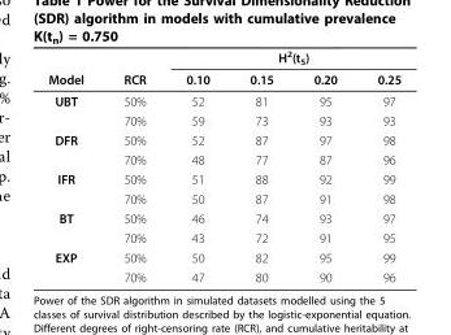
<table><thead><tr><td rowspan="2">Model</td><td rowspan="2">RCR</td><td colspan="4">H<sup>2</sup>(t<sub>5</sub>)</td></tr><tr><td>0.10</td><td>0.15</td><td>0.20</td><td>0.25</td></tr></thead><tbody><tr><td rowspan="2">UBT</td><td>50%</td><td>52</td><td>81</td><td>95</td><td>97</td></tr><tr><td>70%</td><td>59</td><td>73</td><td>93</td><td>93</td></tr><tr><td rowspan="2">DFR</td><td>50%</td><td>52</td><td>87</td><td>97</td><td>98</td></tr><tr><td>70%</td><td>48</td><td>77</td><td>87</td><td>96</td></tr><tr><td rowspan="2">IFR</td><td>50%</td><td>51</td><td>88</td><td>92</td><td>99</td></tr><tr><td>70%</td><td>50</td><td>87</td><td>91</td><td>98</td></tr><tr><td rowspan="2">BT</td><td>50%</td><td>46</td><td>74</td><td>93</td><td>97</td></tr><tr><td>70%</td><td>43</td><td>72</td><td>91</td><td>95</td></tr><tr><td rowspan="2">EXP</td><td>50%</td><td>50</td><td>82</td><td>95</td><td>99</td></tr><tr><td>70%</td><td>47</td><td>80</td><td>90</td><td>96</td></tr></tbody></table>